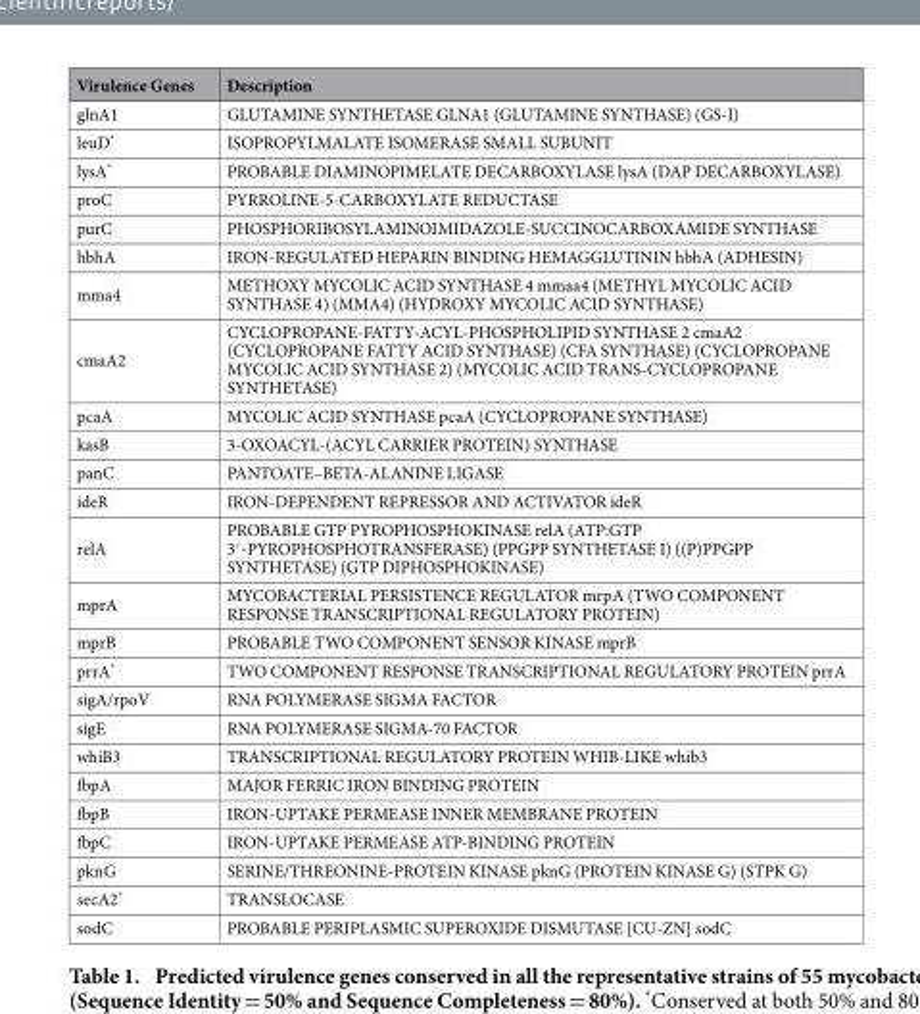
<table><thead><tr><td>Virulence Genes</td><td>Description</td></tr></thead><tbody><tr><td>glnA1</td><td>GLUTAMINE SYNTHETASE GLNA1 (GLUTAMINE SYNTHASE) (GS-I)</td></tr><tr><td>leuD*</td><td>ISOPROPYLMALATE ISOMERASE SMALL SUBUNIT</td></tr><tr><td>lysA*</td><td>PROBABLE DIAMINOPIMELATE DECARBOXYLASE lysA (DAP DECARBOXYLASE)</td></tr><tr><td>proC</td><td>PYRROLINE-5-CARBOXYLATE REDUCTASE</td></tr><tr><td>purC</td><td>PHOSPHORIBOSYLAMINOIMIDAZOLE-SUCCINOCARBOXAMIDE SYNTHASE</td></tr><tr><td>hbhA</td><td>IRON-REGULATED HEPARIN BINDING HEMAGGLUTININ hbhA (ADHESIN)</td></tr><tr><td>mma4</td><td>METHOXY MYCOLIC ACID SYNTHASE 4 mmaa4 (METHYL MYCOLIC ACID SYNTHASE 4) (MMA4) (HYDROXY MYCOLIC ACID SYNTHASE)</td></tr><tr><td>cmaA2</td><td>CYCLOPROPANE-FATTY-ACYL-PHOSPHOLIPID SYNTHASE 2 cmaA2 (CYCLOPROPANE FATTY ACID SYNTHASE) (CFA SYNTHASE) (CYCLOPROPANE MYCOLIC ACID SYNTHASE 2) (MYCOLIC ACID TRANS-CYCLOPROPANE SYNTHETASE)</td></tr><tr><td>pcaA</td><td>MYCOLIC ACID SYNTHASE pcaA (CYCLOPROPANE SYNTHASE)</td></tr><tr><td>kasB</td><td>3-OXOACYL-(ACYL CARRIER PROTEIN) SYNTHASE</td></tr><tr><td>panC</td><td>PANTOATE–BETA-ALANINE LIGASE</td></tr><tr><td>ideR</td><td>IRON-DEPENDENT REPRESSOR AND ACTIVATOR ideR</td></tr><tr><td>relA</td><td>PROBABLE GTP PYROPHOSPHOKINASE relA (ATP:GTP 3′ -PYROPHOSPHOTRANSFERASE) (PPGPP SYNTHETASE I) ((P)PPGPP SYNTHETASE) (GTP DIPHOSPHOKINASE)</td></tr><tr><td>mprA</td><td>MYCOBACTERIAL PERSISTENCE REGULATOR mrpA (TWO COMPONENT RESPONSE TRANSCRIPTIONAL REGULATORY PROTEIN)</td></tr><tr><td>mprB</td><td>PROBABLE TWO COMPONENT SENSOR KINASE mprB</td></tr><tr><td>prrA*</td><td>TWO COMPONENT RESPONSE TRANSCRIPTIONAL REGULATORY PROTEIN prrA</td></tr><tr><td>sigA/rpoV</td><td>RNA POLYMERASE SIGMA FACTOR</td></tr><tr><td>sigE</td><td>RNA POLYMERASE SIGMA-70 FACTOR</td></tr><tr><td>whiB3</td><td>TRANSCRIPTIONAL REGULATORY PROTEIN WHIB-LIKE whib3</td></tr><tr><td>fbpA</td><td>MAJOR FERRIC IRON BINDING PROTEIN</td></tr><tr><td>fbpB</td><td>IRON-UPTAKE PERMEASE INNER MEMBRANE PROTEIN</td></tr><tr><td>fbpC</td><td>IRON-UPTAKE PERMEASE ATP-BINDING PROTEIN</td></tr><tr><td>pknG</td><td>SERINE/THREONINE-PROTEIN KINASE pknG (PROTEIN KINASE G) (STPK G)</td></tr><tr><td>secA2*</td><td>TRANSLOCASE</td></tr><tr><td>sodC</td><td>PROBABLE PERIPLASMIC SUPEROXIDE DISMUTASE [CU-ZN] sodC</td></tr></tbody></table>